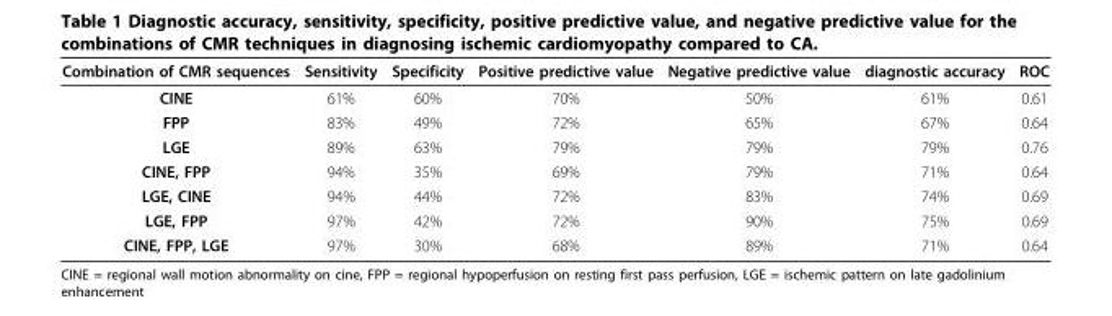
<table><thead><tr><td>Combination of CMR sequences</td><td>Sensitivity</td><td>Specificity</td><td>Positive predictive value</td><td>Negative predictive value</td><td>diagnostic accuracy</td><td>ROC</td></tr></thead><tbody><tr><td>CINE</td><td>61%</td><td>60%</td><td>70%</td><td>50%</td><td>61%</td><td>0.61</td></tr><tr><td>FPP</td><td>83%</td><td>49%</td><td>72%</td><td>65%</td><td>67%</td><td>0.64</td></tr><tr><td>LGE</td><td>89%</td><td>63%</td><td>79%</td><td>79%</td><td>79%</td><td>0.76</td></tr><tr><td>CINE, FPP</td><td>94%</td><td>35%</td><td>69%</td><td>79%</td><td>71%</td><td>0.64</td></tr><tr><td>LGE, CINE</td><td>94%</td><td>44%</td><td>72%</td><td>83%</td><td>74%</td><td>0.69</td></tr><tr><td>LGE, FPP</td><td>97%</td><td>42%</td><td>72%</td><td>90%</td><td>75%</td><td>0.69</td></tr><tr><td>CINE, FPP, LGE</td><td>97%</td><td>30%</td><td>68%</td><td>89%</td><td>71%</td><td>0.64</td></tr></tbody></table>